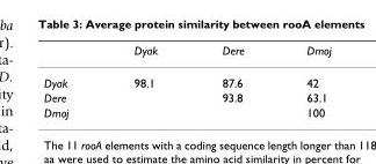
<table><thead><tr><td></td><td>Dyak</td><td>Dere</td><td>Dmoj</td></tr></thead><tbody><tr><td>Dyak</td><td>98.1</td><td>87.6</td><td>42</td></tr><tr><td>Dere</td><td></td><td>93.8</td><td>63.1</td></tr><tr><td>Dmoj</td><td></td><td></td><td>100</td></tr></tbody></table>